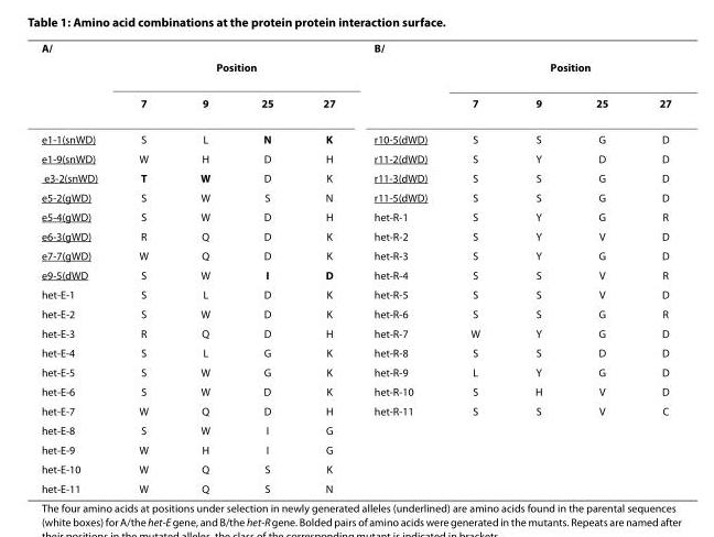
<table><tbody><tr><td rowspan="3">A/</td><td></td><td></td><td></td><td></td><td>B/</td><td></td><td></td><td></td><td></td></tr><tr><td colspan="4">Position</td><td></td><td colspan="4">Position</td></tr><tr><td>7</td><td>9</td><td>25</td><td>27</td><td></td><td>7</td><td>9</td><td>25</td><td>27</td></tr><tr><td>e1-1(snWD)</td><td>S</td><td>L</td><td>N</td><td>K</td><td>r10-5(dWD)</td><td>S</td><td>S</td><td>G</td><td>D</td></tr><tr><td>e1-9(snWD)</td><td>W</td><td>H</td><td>D</td><td>H</td><td>r11-2(dWD)</td><td>S</td><td>Y</td><td>D</td><td>D</td></tr><tr><td>e3-2(snWD)</td><td>T</td><td>W</td><td>D</td><td>K</td><td>r11-3(dWD)</td><td>S</td><td>S</td><td>G</td><td>D</td></tr><tr><td>e5-2(gWD)</td><td>S</td><td>W</td><td>S</td><td>N</td><td>r11-5(dWD)</td><td>S</td><td>S</td><td>G</td><td>D</td></tr><tr><td>e5-4(gWD)</td><td>S</td><td>W</td><td>D</td><td>H</td><td>het-R-1</td><td>S</td><td>Y</td><td>G</td><td>R</td></tr><tr><td>e6-3(gWD)</td><td>R</td><td>Q</td><td>D</td><td>K</td><td>het-R-2</td><td>S</td><td>Y</td><td>V</td><td>D</td></tr><tr><td>e7-7(gWD)</td><td>W</td><td>Q</td><td>D</td><td>K</td><td>het-R-3</td><td>S</td><td>Y</td><td>G</td><td>D</td></tr><tr><td>e9-5(dWD</td><td>S</td><td>W</td><td>I</td><td>D</td><td>het-R-4</td><td>S</td><td>S</td><td>V</td><td>R</td></tr><tr><td>het-E-1</td><td>S</td><td>L</td><td>D</td><td>K</td><td>het-R-5</td><td>S</td><td>S</td><td>V</td><td>D</td></tr><tr><td>het-E-2</td><td>S</td><td>W</td><td>D</td><td>K</td><td>het-R-6</td><td>S</td><td>S</td><td>G</td><td>R</td></tr><tr><td>het-E-3</td><td>R</td><td>Q</td><td>D</td><td>H</td><td>het-R-7</td><td>W</td><td>Y</td><td>G</td><td>D</td></tr><tr><td>het-E-4</td><td>S</td><td>L</td><td>G</td><td>K</td><td>het-R-8</td><td>S</td><td>S</td><td>D</td><td>D</td></tr><tr><td>het-E-5</td><td>S</td><td>W</td><td>G</td><td>K</td><td>het-R-9</td><td>L</td><td>Y</td><td>G</td><td>D</td></tr><tr><td>het-E-6</td><td>S</td><td>W</td><td>D</td><td>K</td><td>het-R-10</td><td>S</td><td>H</td><td>V</td><td>D</td></tr><tr><td>het-E-7</td><td>W</td><td>Q</td><td>D</td><td>H</td><td>het-R-11</td><td>S</td><td>S</td><td>V</td><td>C</td></tr><tr><td>het-E-8</td><td>S</td><td>W</td><td>I</td><td>G</td><td></td><td></td><td></td><td></td><td></td></tr><tr><td>het-E-9</td><td>W</td><td>H</td><td>I</td><td>G</td><td></td><td></td><td></td><td></td><td></td></tr><tr><td>het-E-10</td><td>W</td><td>Q</td><td>S</td><td>K</td><td></td><td></td><td></td><td></td><td></td></tr><tr><td>het-E-11</td><td>W</td><td>Q</td><td>S</td><td>N</td><td></td><td></td><td></td><td></td><td></td></tr></tbody></table>